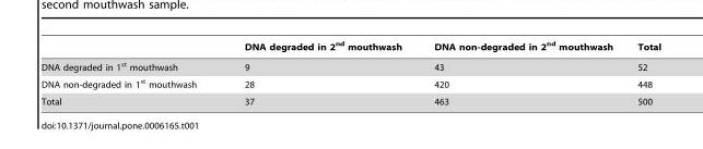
<table><thead><tr><td></td><td>DNA degraded in 2<sup>nd</sup> mouthwash</td><td>DNA non-degraded in 2<sup>nd</sup> mouthwash</td><td>Total</td></tr></thead><tbody><tr><td>DNA degraded in 1<sup>st</sup> mouthwash</td><td>9</td><td>43</td><td>52</td></tr><tr><td>DNA non-degraded in 1<sup>st</sup> mouthwash</td><td>28</td><td>420</td><td>448</td></tr><tr><td>Total</td><td>37</td><td>463</td><td>500</td></tr></tbody></table>